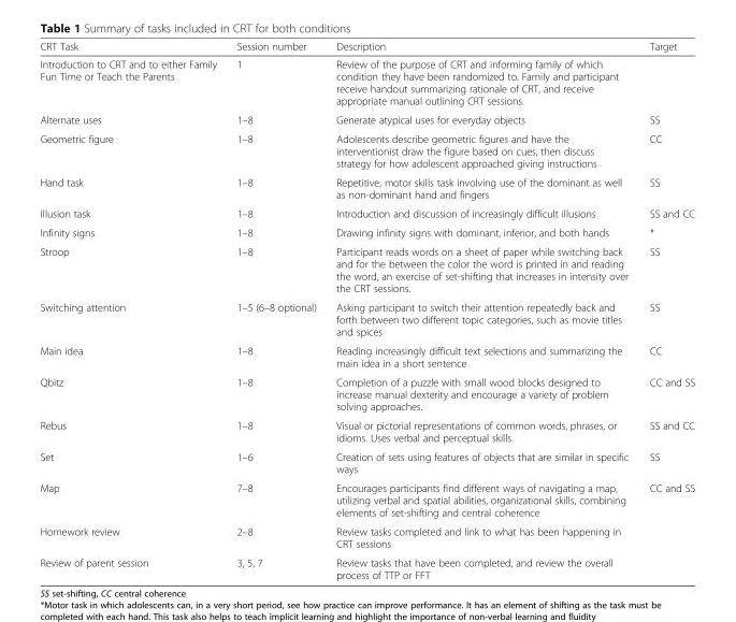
<table><thead><tr><td>CRT Task</td><td>Session number</td><td>Description</td><td>Target</td></tr></thead><tbody><tr><td>Introduction to CRT and to either Family Fun Time or Teach the Parents</td><td>1</td><td>Review of the purpose of CRT and informing family of which condition they have been randomized to. Family and participant receive handout summarizing rationale of CRT, and receive appropriate manual outlining CRT sessions.</td><td></td></tr><tr><td>Alternate uses</td><td>1–8</td><td>Generate atypical uses for everyday objects</td><td>SS</td></tr><tr><td>Geometric figure</td><td>1–8</td><td>Adolescents describe geometric figures and have the interventionist draw the figure based on cues, then discuss strategy for how adolescent approached giving instructions</td><td>CC</td></tr><tr><td>Hand task</td><td>1–8</td><td>Repetitive, motor skills task involving use of the dominant as well as non-dominant hand and fingers</td><td>SS</td></tr><tr><td>Illusion task</td><td>1–8</td><td>Introduction and discussion of increasingly difficult illusions</td><td>SS and CC</td></tr><tr><td>Infinity signs</td><td>1–8</td><td>Drawing infinity signs with dominant, inferior, and both hands</td><td>*</td></tr><tr><td>Stroop</td><td>1–8</td><td>Participant reads words on a sheet of paper while switching back and for the between the color the word is printed in and reading the word, an exercise of set-shifting that increases in intensity over the CRT sessions.</td><td>SS</td></tr><tr><td>Switching attention</td><td>1–5 (6–8 optional)</td><td>Asking participant to switch their attention repeatedly back and forth between two different topic categories, such as movie titles and spices</td><td>SS</td></tr><tr><td>Main idea</td><td>1–8</td><td>Reading increasingly difficult text selections and summarizing the main idea in a short sentence</td><td>CC</td></tr><tr><td>Qbitz</td><td>1–8</td><td>Completion of a puzzle with small wood blocks designed to increase manual dexterity and encourage a variety of problem solving approaches.</td><td>CC and SS</td></tr><tr><td>Rebus</td><td>1–8</td><td>Visual or pictorial representations of common words, phrases, or idioms. Uses verbal and perceptual skills.</td><td>SS and CC</td></tr><tr><td>Set</td><td>1–6</td><td>Creation of sets using features of objects that are similar in specific ways</td><td>SS</td></tr><tr><td>Map</td><td>7–8</td><td>Encourages participants find different ways of navigating a map, utilizing verbal and spatial abilities, organizational skills, combining elements of set-shifting and central coherence</td><td>CC and SS</td></tr><tr><td>Homework review</td><td>2–8</td><td>Review tasks completed and link to what has been happening in CRT sessions</td><td></td></tr><tr><td>Review of parent session</td><td>3, 5, 7</td><td>Review tasks that have been completed, and review the overall process of TTP or FFT</td><td></td></tr></tbody></table>